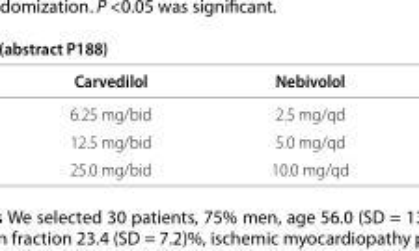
<table><thead><tr><td>Carvedilol</td><td>Nebivolol</td></tr></thead><tbody><tr><td>6.25 mg/bid</td><td>2.5 mg/qd</td></tr><tr><td>12.5 mg/bid</td><td>5.0 mg/qd</td></tr><tr><td>25.0 mg/bid</td><td>10.0 mg/qd</td></tr></tbody></table>